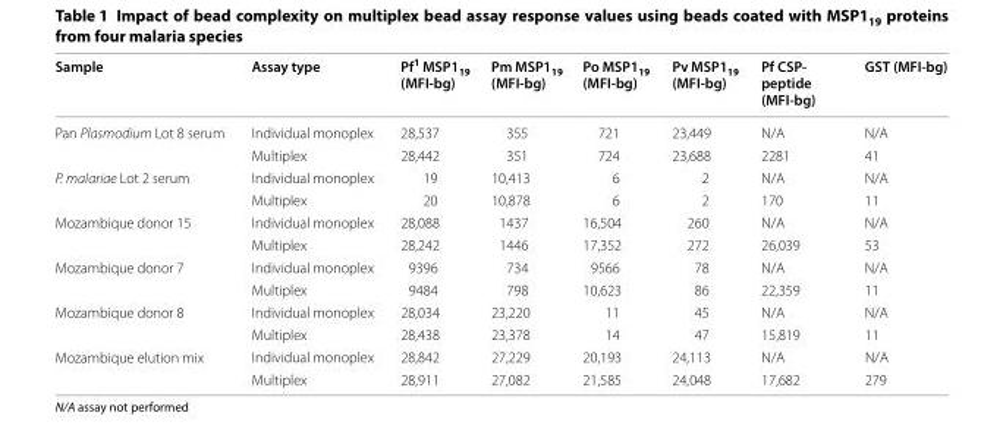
<table><thead><tr><td>Sample</td><td>Assay type</td><td>Pf<sup>1</sup> MSP1<sub>19</sub> (MFI‑bg)</td><td>Pm MSP1<sub>19</sub> (MFI‑bg)</td><td>Po MSP1<sub>19</sub> (MFI‑bg)</td><td>Pv MSP1<sub>19</sub> (MFI‑bg)</td><td>Pf CSP‑ peptide (MFI‑bg)</td><td>GST (MFI‑bg)</td></tr></thead><tbody><tr><td rowspan="2">Pan Plasmodium Lot 8 serum</td><td>Individual monoplex</td><td>28,537</td><td>355</td><td>721</td><td>23,449</td><td>N/A</td><td>N/A</td></tr><tr><td>Multiplex</td><td>28,442</td><td>351</td><td>724</td><td>23,688</td><td>2281</td><td>41</td></tr><tr><td rowspan="2">P. malariae Lot 2 serum</td><td>Individual monoplex</td><td>19</td><td>10,413</td><td>6</td><td>2</td><td>N/A</td><td>N/A</td></tr><tr><td>Multiplex</td><td>20</td><td>10,878</td><td>6</td><td>2</td><td>170</td><td>11</td></tr><tr><td rowspan="2">Mozambique donor 15</td><td>Individual monoplex</td><td>28,088</td><td>1437</td><td>16,504</td><td>260</td><td>N/A</td><td>N/A</td></tr><tr><td>Multiplex</td><td>28,242</td><td>1446</td><td>17,352</td><td>272</td><td>26,039</td><td>53</td></tr><tr><td rowspan="2">Mozambique donor 7</td><td>Individual monoplex</td><td>9396</td><td>734</td><td>9566</td><td>78</td><td>N/A</td><td>N/A</td></tr><tr><td>Multiplex</td><td>9484</td><td>798</td><td>10,623</td><td>86</td><td>22,359</td><td>11</td></tr><tr><td rowspan="2">Mozambique donor 8</td><td>Individual monoplex</td><td>28,034</td><td>23,220</td><td>11</td><td>45</td><td>N/A</td><td>N/A</td></tr><tr><td>Multiplex</td><td>28,438</td><td>23,378</td><td>14</td><td>47</td><td>15,819</td><td>11</td></tr><tr><td rowspan="2">Mozambique elution mix</td><td>Individual monoplex</td><td>28,842</td><td>27,229</td><td>20,193</td><td>24,113</td><td>N/A</td><td>N/A</td></tr><tr><td>Multiplex</td><td>28,911</td><td>27,082</td><td>21,585</td><td>24,048</td><td>17,682</td><td>279</td></tr></tbody></table>